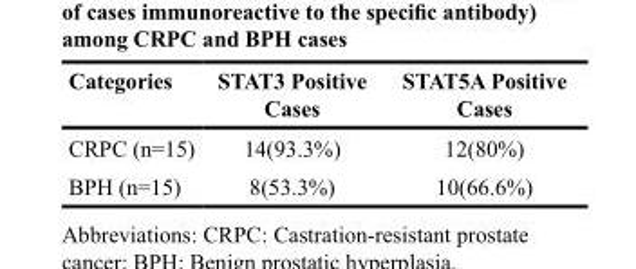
<table><thead><tr><td>Categories</td><td>STAT3 Positive Cases</td><td>STAT5A Positive Cases</td></tr></thead><tbody><tr><td>CRPC (n=15)</td><td>14(93.3%)</td><td>12(80%)</td></tr><tr><td>BPH (n=15)</td><td>8(53.3%)</td><td>10(66.6%)</td></tr></tbody></table>